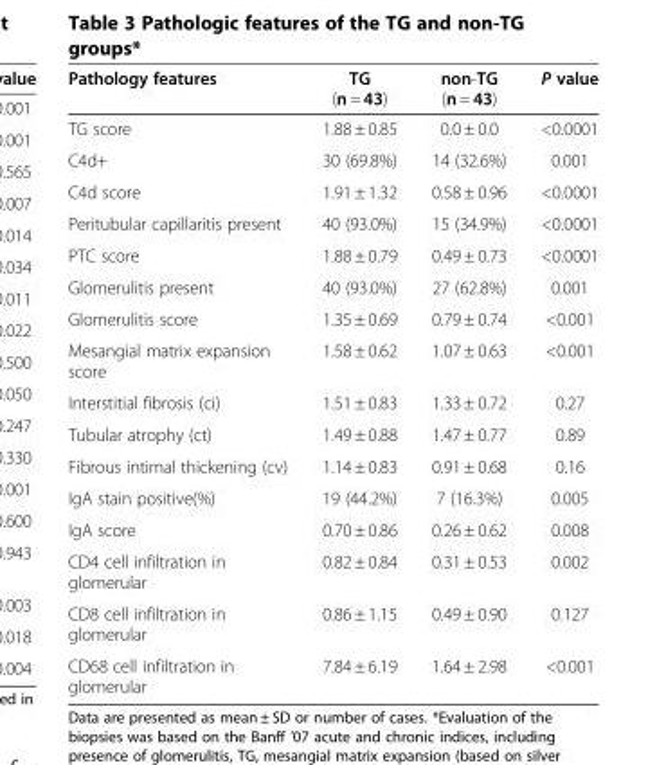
<table><thead><tr><td>Pathology features</td><td>TG (n = 43)</td><td>non-TG (n = 43)</td><td>P value</td></tr></thead><tbody><tr><td>TG score</td><td>1.88 ± 0.85</td><td>0.0 ± 0.0</td><td>&lt;0.0001</td></tr><tr><td>C4d+</td><td>30 (69.8%)</td><td>14 (32.6%)</td><td>0.001</td></tr><tr><td>C4d score</td><td>1.91 ± 1.32</td><td>0.58 ± 0.96</td><td>&lt;0.0001</td></tr><tr><td>Peritubular capillaritis present</td><td>40 (93.0%)</td><td>15 (34.9%)</td><td>&lt;0.0001</td></tr><tr><td>PTC score</td><td>1.88 ± 0.79</td><td>0.49 ± 0.73</td><td>&lt;0.0001</td></tr><tr><td>Glomerulitis present</td><td>40 (93.0%)</td><td>27 (62.8%)</td><td>0.001</td></tr><tr><td>Glomerulitis score</td><td>1.35 ± 0.69</td><td>0.79 ± 0.74</td><td>&lt;0.001</td></tr><tr><td>Mesangial matrix expansion score</td><td>1.58 ± 0.62</td><td>1.07 ± 0.63</td><td>&lt;0.001</td></tr><tr><td>Interstitial fibrosis (ci)</td><td>1.51 ± 0.83</td><td>1.33 ± 0.72</td><td>0.27</td></tr><tr><td>Tubular atrophy (ct)</td><td>1.49 ± 0.88</td><td>1.47 ± 0.77</td><td>0.89</td></tr><tr><td>Fibrous intimal thickening (cv)</td><td>1.14 ± 0.83</td><td>0.91 ± 0.68</td><td>0.16</td></tr><tr><td>IgA stain positive(%)</td><td>19 (44.2%)</td><td>7 (16.3%)</td><td>0.005</td></tr><tr><td>IgA score</td><td>0.70 ± 0.86</td><td>0.26 ± 0.62</td><td>0.008</td></tr><tr><td>CD4 cell infiltration in glomerular</td><td>0.82 ± 0.84</td><td>0.31 ± 0.53</td><td>0.002</td></tr><tr><td>CD8 cell infiltration in glomerular</td><td>0.86 ± 1.15</td><td>0.49 ± 0.90</td><td>0.127</td></tr><tr><td>CD68 cell infiltration in glomerular</td><td>7.84 ± 6.19</td><td>1.64 ± 2.98</td><td>&lt;0.001</td></tr></tbody></table>